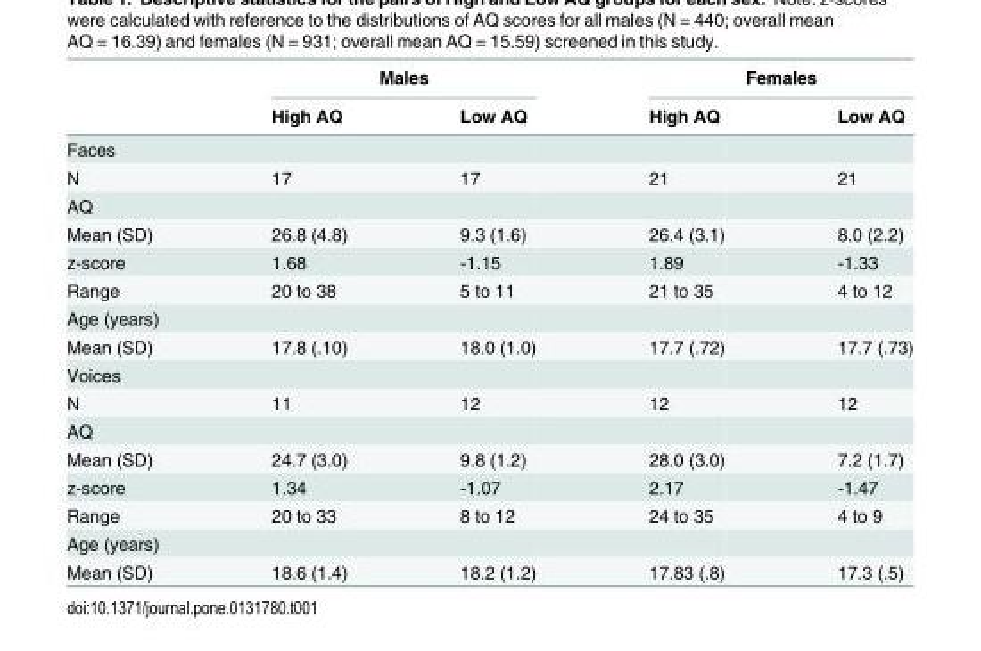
<table><thead><tr><td rowspan="2"></td><td colspan="2">Males</td><td colspan="2">Females</td></tr><tr><td>High AQ</td><td>Low AQ</td><td>High AQ</td><td>Low AQ</td></tr></thead><tbody><tr><td colspan="5">Faces</td></tr><tr><td>N</td><td>17</td><td>17</td><td>21</td><td>21</td></tr><tr><td colspan="5">AQ</td></tr><tr><td>Mean (SD)</td><td>26.8 (4.8)</td><td>9.3 (1.6)</td><td>26.4 (3.1)</td><td>8.0 (2.2)</td></tr><tr><td>z-score</td><td>1.68</td><td>-1.15</td><td>1.89</td><td>-1.33</td></tr><tr><td>Range</td><td>20 to 38</td><td>5 to 11</td><td>21 to 35</td><td>4 to 12</td></tr><tr><td colspan="5">Age (years)</td></tr><tr><td>Mean (SD)</td><td>17.8 (.10)</td><td>18.0 (1.0)</td><td>17.7 (.72)</td><td>17.7 (.73)</td></tr><tr><td colspan="5">Voices</td></tr><tr><td>N</td><td>11</td><td>12</td><td>12</td><td>12</td></tr><tr><td colspan="5">AQ</td></tr><tr><td>Mean (SD)</td><td>24.7 (3.0)</td><td>9.8 (1.2)</td><td>28.0 (3.0)</td><td>7.2 (1.7)</td></tr><tr><td>z-score</td><td>1.34</td><td>-1.07</td><td>2.17</td><td>-1.47</td></tr><tr><td>Range</td><td>20 to 33</td><td>8 to 12</td><td>24 to 35</td><td>4 to 9</td></tr><tr><td colspan="5">Age (years)</td></tr><tr><td>Mean (SD)</td><td>18.6 (1.4)</td><td>18.2 (1.2)</td><td>17.83 (.8)</td><td>17.3 (.5)</td></tr></tbody></table>